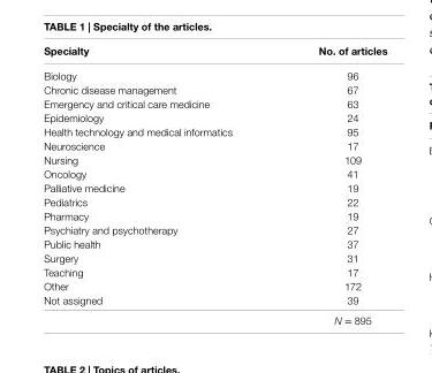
<table><thead><tr><td>Specialty</td><td>No. of articles</td></tr></thead><tbody><tr><td>Biology</td><td>96</td></tr><tr><td>Chronic disease management</td><td>67</td></tr><tr><td>Emergency and critical care medicine</td><td>63</td></tr><tr><td>Epidemiology</td><td>24</td></tr><tr><td>Health technology and medical informatics</td><td>95</td></tr><tr><td>Neuroscience</td><td>17</td></tr><tr><td>Nursing</td><td>109</td></tr><tr><td>Oncology</td><td>41</td></tr><tr><td>Palliative medicine</td><td>19</td></tr><tr><td>Pediatrics</td><td>22</td></tr><tr><td>Pharmacy</td><td>19</td></tr><tr><td>Psychiatry and psychotherapy</td><td>27</td></tr><tr><td>Public health</td><td>37</td></tr><tr><td>Surgery</td><td>31</td></tr><tr><td>Teaching</td><td>17</td></tr><tr><td>Other</td><td>172</td></tr><tr><td rowspan="2">Not assigned</td><td>39</td></tr><tr><td>N = 895</td></tr></tbody></table>